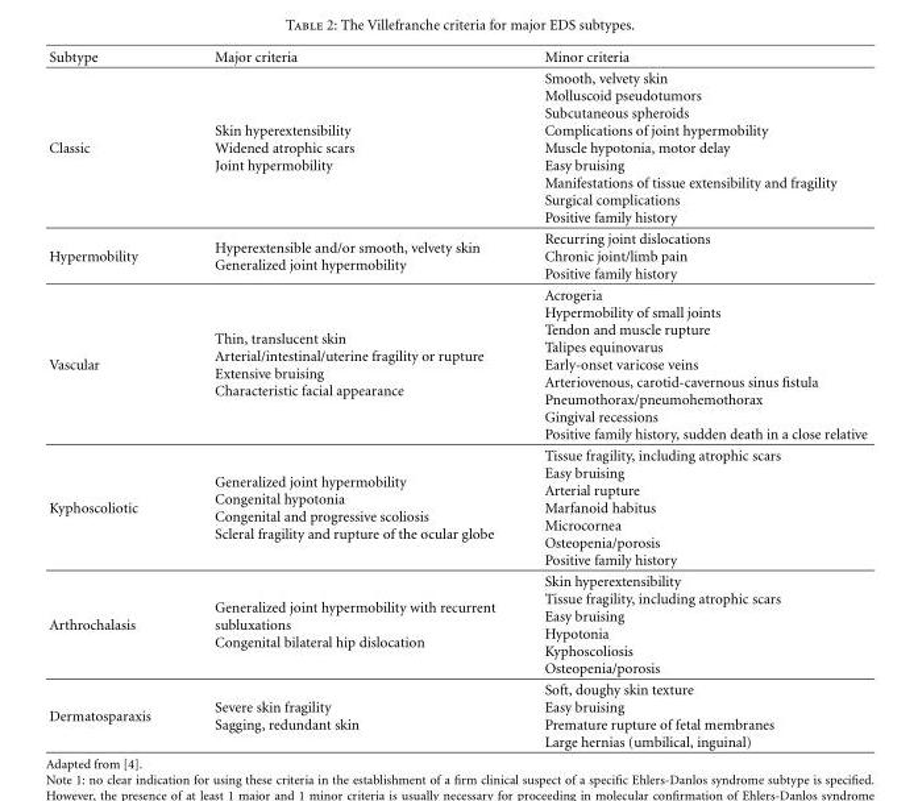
<table><thead><tr><td>Subtype</td><td>Major criteria</td><td>Minor criteria</td></tr></thead><tbody><tr><td>Classic</td><td>Skin hyperextensibility Widened atrophic scars Joint hypermobility</td><td>Smooth, velvety skin Molluscoid pseudotumors Subcutaneous spheroids Complications of joint hypermobility Muscle hypotonia, motor delay Easy bruising Manifestations of tissue extensibility and fragility Surgical complications Positive family history</td></tr><tr><td>Hypermobility</td><td>Hyperextensible and/or smooth, velvety skin Generalized joint hypermobility</td><td>Recurring joint dislocations Chronic joint/limb pain Positive family history</td></tr><tr><td>Vascular</td><td>Thin, translucent skin Arterial/intestinal/uterine fragility or rupture Extensive bruising Characteristic facial appearance</td><td>Acrogeria Hypermobility of small joints Tendon and muscle rupture Talipes equinovarus Early-onset varicose veins Arteriovenous, carotid-cavernous sinus fistula Pneumothorax/pneumohemothorax Gingival recessions Positive family history, sudden death in a close relative</td></tr><tr><td>Kyphoscoliotic</td><td>Generalized joint hypermobility Congenital hypotonia Congenital and progressive scoliosis Scleral fragility and rupture of the ocular globe</td><td>Tissue fragility, including atrophic scars Easy bruising Arterial rupture Marfanoid habitus Microcornea Osteopenia/porosis Positive family history</td></tr><tr><td>Arthrochalasis</td><td>Generalized joint hypermobility with recurrent subluxations Congenital bilateral hip dislocation</td><td>Skin hyperextensibility Tissue fragility, including atrophic scars Easy bruising Hypotonia Kyphoscoliosis Osteopenia/porosis</td></tr><tr><td>Dermatosparaxis</td><td>Severe skin fragility Sagging, redundant skin</td><td>Soft, doughy skin texture Easy bruising Premature rupture of fetal membranes Large hernias (umbilical, inguinal)</td></tr></tbody></table>